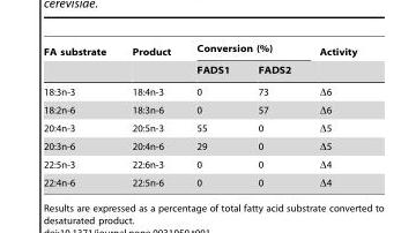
<table><thead><tr><td rowspan="2">FA substrate</td><td rowspan="2">Product</td><td colspan="2">Conversion (%)</td><td rowspan="2">Activity</td></tr><tr><td>FADS1</td><td>FADS2</td></tr></thead><tbody><tr><td>18:3n-3</td><td>18:4n-3</td><td>0</td><td>73</td><td>Δ6</td></tr><tr><td>18:2n-6</td><td>18:3n-6</td><td>0</td><td>57</td><td>Δ6</td></tr><tr><td>20:4n-3</td><td>20:5n-3</td><td>55</td><td>0</td><td>Δ5</td></tr><tr><td>20:3n-6</td><td>20:4n-6</td><td>29</td><td>0</td><td>Δ5</td></tr><tr><td>22:5n-3</td><td>22:6n-3</td><td>0</td><td>0</td><td>Δ4</td></tr><tr><td>22:4n-6</td><td>22:5n-6</td><td>0</td><td>0</td><td>Δ4</td></tr></tbody></table>